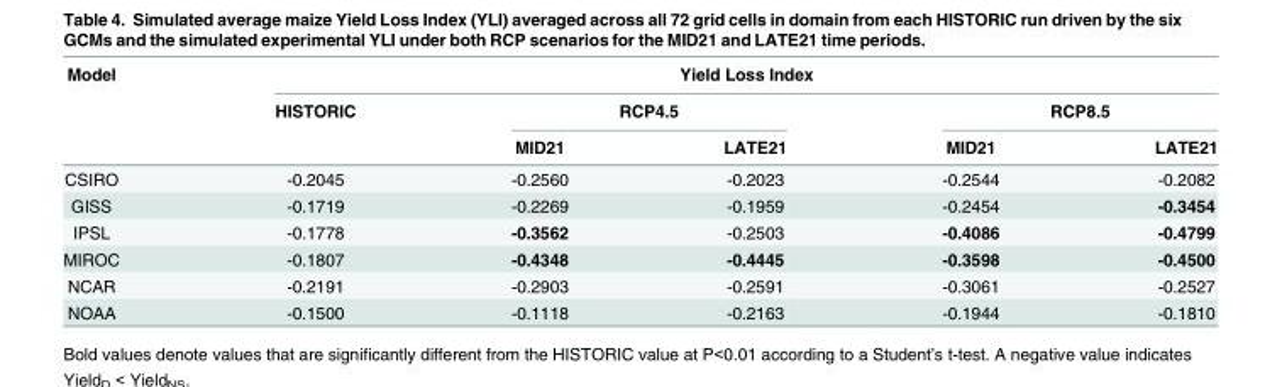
<table><thead><tr><td rowspan="3">Model</td><td colspan="5">Yield Loss Index</td></tr><tr><td rowspan="2">HISTORIC</td><td colspan="2">RCP4.5</td><td colspan="2">RCP8.5</td></tr><tr><td>MID21</td><td>LATE21</td><td>MID21</td><td>LATE21</td></tr></thead><tbody><tr><td>CSIRO</td><td>-0.2045</td><td>-0.2560</td><td>-0.2023</td><td>-0.2544</td><td>-0.2082</td></tr><tr><td>GISS</td><td>-0.1719</td><td>-0.2269</td><td>-0.1959</td><td>-0.2454</td><td>-0.3454</td></tr><tr><td>IPSL</td><td>-0.1778</td><td>-0.3562</td><td>-0.2503</td><td>-0.4086</td><td>-0.4799</td></tr><tr><td>MIROC</td><td>-0.1807</td><td>-0.4348</td><td>-0.4445</td><td>-0.3598</td><td>-0.4500</td></tr><tr><td>NCAR</td><td>-0.2191</td><td>-0.2903</td><td>-0.2591</td><td>-0.3061</td><td>-0.2527</td></tr><tr><td>NOAA</td><td>-0.1500</td><td>-0.1118</td><td>-0.2163</td><td>-0.1944</td><td>-0.1810</td></tr></tbody></table>